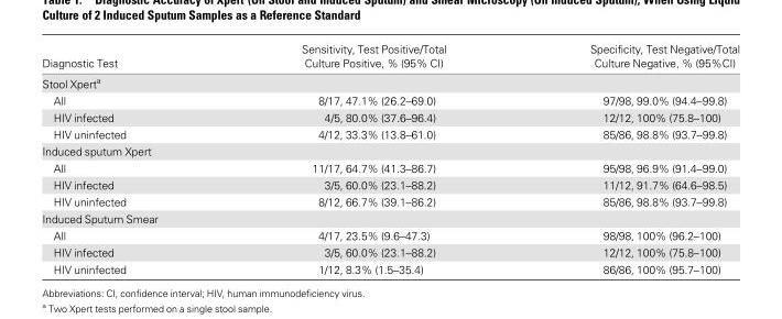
<table><thead><tr><td>Diagnostic Test</td><td>Sensitivity, Test Positive/Total Culture Positive, % (95% CI)</td><td>Specificity, Test Negative/Total Culture Negative, % (95%CI)</td></tr></thead><tbody><tr><td colspan="3">Stool Xpert<sup>a</sup></td></tr><tr><td>All</td><td>8/17, 47.1% (26.2–69.0)</td><td>97/98, 99.0% (94.4–99.8)</td></tr><tr><td>HIV infected</td><td>4/5, 80.0% (37.6–96.4)</td><td>12/12, 100% (75.8–100)</td></tr><tr><td>HIV uninfected</td><td>4/12, 33.3% (13.8–61.0)</td><td>85/86, 98.8% (93.7–99.8)</td></tr><tr><td colspan="3">Induced sputum Xpert</td></tr><tr><td>All</td><td>11/17, 64.7% (41.3–86.7)</td><td>95/98, 96.9% (91.4–99.0)</td></tr><tr><td>HIV infected</td><td>3/5, 60.0% (23.1–88.2)</td><td>11/12, 91.7% (64.6–98.5)</td></tr><tr><td>HIV uninfected</td><td>8/12, 66.7% (39.1–86.2)</td><td>85/86, 98.8% (93.7–99.8)</td></tr><tr><td colspan="3">Induced Sputum Smear</td></tr><tr><td>All</td><td>4/17, 23.5% (9.6–47.3)</td><td>98/98, 100% (96.2–100)</td></tr><tr><td>HIV infected</td><td>3/5, 60.0% (23.1–88.2)</td><td>12/12, 100% (75.8–100)</td></tr><tr><td>HIV uninfected</td><td>1/12, 8.3% (1.5–35.4)</td><td>86/86, 100% (95.7–100)</td></tr></tbody></table>